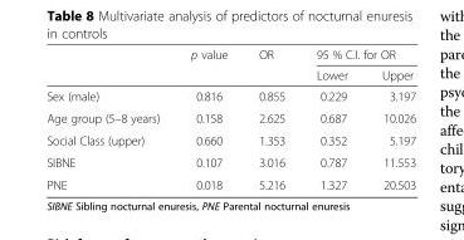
<table><thead><tr><td rowspan="2"></td><td rowspan="2">p value</td><td rowspan="2">OR</td><td colspan="2">95 % C.I. for OR</td></tr><tr><td>Lower</td><td>Upper</td></tr></thead><tbody><tr><td>Sex (male)</td><td>0.816</td><td>0.855</td><td>0.229</td><td>3.197</td></tr><tr><td>Age group (5–8 years)</td><td>0.158</td><td>2.625</td><td>0.687</td><td>10.026</td></tr><tr><td>Social Class (upper)</td><td>0.660</td><td>1.353</td><td>0.352</td><td>5.197</td></tr><tr><td>SIBNE</td><td>0.107</td><td>3.016</td><td>0.787</td><td>11.553</td></tr><tr><td>PNE</td><td>0.018</td><td>5.216</td><td>1.327</td><td>20.503</td></tr></tbody></table>